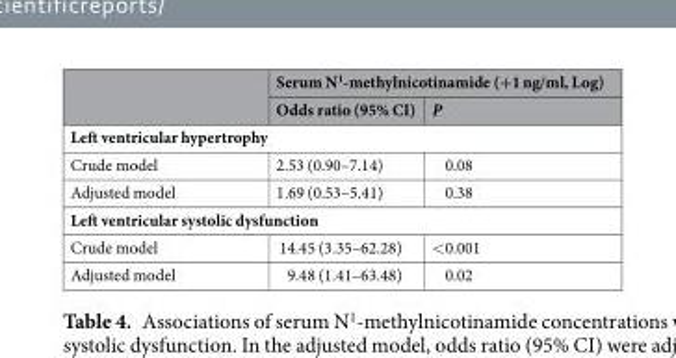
<table><thead><tr><td rowspan="2"></td><td colspan="2">Serum N<sup>1</sup>-methylnicotinamide (+1 ng/ml, Log)</td></tr><tr><td>Odds ratio (95% CI)</td><td>P</td></tr></thead><tbody><tr><td colspan="3">Left ventricular hypertrophy</td></tr><tr><td>Crude model</td><td>2.53 (0.90–7.14)</td><td>0.08</td></tr><tr><td>Adjusted model</td><td>1.69 (0.53–5.41)</td><td>0.38</td></tr><tr><td colspan="3">Left ventricular systolic dysfunction</td></tr><tr><td>Crude model</td><td>14.45 (3.35–62.28)</td><td>&lt;0.001</td></tr><tr><td>Adjusted model</td><td>9.48 (1.41–63.48)</td><td>0.02</td></tr></tbody></table>